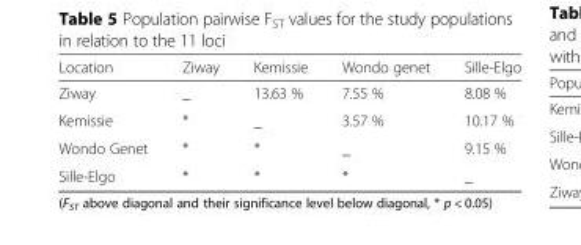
<table><thead><tr><td>Location</td><td>Ziway</td><td>Kemissie</td><td>Wondo genet</td><td>Sille-Elgo</td></tr></thead><tbody><tr><td>Ziway</td><td>_</td><td>13.63 %</td><td>7.55 %</td><td>8.08 %</td></tr><tr><td>Kemissie</td><td>*</td><td>_</td><td>3.57 %</td><td>10.17 %</td></tr><tr><td>Wondo Genet</td><td>*</td><td>*</td><td>_</td><td>9.15 %</td></tr><tr><td>Sille-Elgo</td><td>*</td><td>*</td><td>*</td><td>_</td></tr></tbody></table>